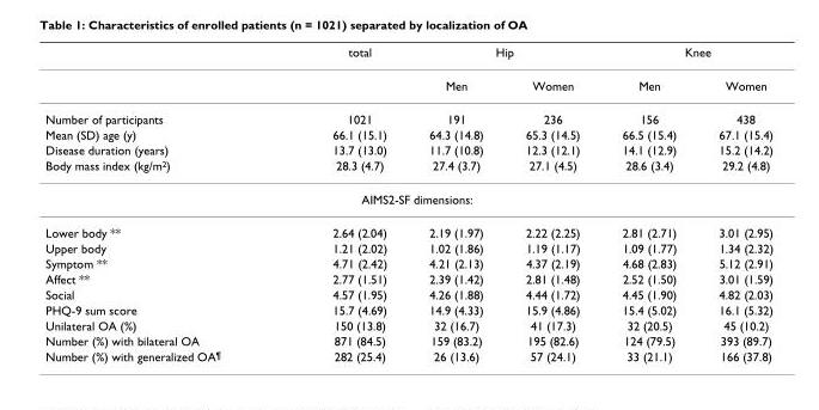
<table><thead><tr><td rowspan="2"></td><td rowspan="2">total</td><td colspan="2">Hip</td><td colspan="2">Knee</td></tr><tr><td>Men</td><td>Women</td><td>Men</td><td>Women</td></tr></thead><tbody><tr><td>Number of participants</td><td>1021</td><td>191</td><td>236</td><td>156</td><td>438</td></tr><tr><td>Mean (SD) age (y)</td><td>66.1 (15.1)</td><td>64.3 (14.8)</td><td>65.3 (14.5)</td><td>66.5 (15.4)</td><td>67.1 (15.4)</td></tr><tr><td>Disease duration (years)</td><td>13.7 (13.0)</td><td>11.7 (10.8)</td><td>12.3 (12.1)</td><td>14.1 (12.9)</td><td>15.2 (14.2)</td></tr><tr><td>Body mass index (kg/m<sup>2</sup>)</td><td>28.3 (4.7)</td><td>27.4 (3.7)</td><td>27.1 (4.5)</td><td>28.6 (3.4)</td><td>29.2 (4.8)</td></tr><tr><td colspan="6">AIMS2-SF dimensions:</td></tr><tr><td>Lower body **</td><td>2.64 (2.04)</td><td>2.19 (1.97)</td><td>2.22 (2.25)</td><td>2.81 (2.71)</td><td>3.01 (2.95)</td></tr><tr><td>Upper body</td><td>1.21 (2.02)</td><td>1.02 (1.86)</td><td>1.19 (1.17)</td><td>1.09 (1.77)</td><td>1.34 (2.32)</td></tr><tr><td>Symptom **</td><td>4.71 (2.42)</td><td>4.21 (2.13)</td><td>4.37 (2.19)</td><td>4.68 (2.83)</td><td>5.12 (2.91)</td></tr><tr><td>Affect **</td><td>2.77 (1.51)</td><td>2.39 (1.42)</td><td>2.81 (1.48)</td><td>2.52 (1.50)</td><td>3.01 (1.59)</td></tr><tr><td>Social</td><td>4.57 (1.95)</td><td>4.26 (1.88)</td><td>4.44 (1.72)</td><td>4.45 (1.90)</td><td>4.82 (2.03)</td></tr><tr><td>PHQ-9 sum score</td><td>15.7 (4.69)</td><td>14.9 (4.33)</td><td>15.9 (4.86)</td><td>15.4 (5.02)</td><td>16.1 (5.32)</td></tr><tr><td>Unilateral OA (%)</td><td>150 (13.8)</td><td>32 (16.7)</td><td>41 (17.3)</td><td>32 (20.5)</td><td>45 (10.2)</td></tr><tr><td>Number (%) with bilateral OA</td><td>871 (84.5)</td><td>159 (83.2)</td><td>195 (82.6)</td><td>124 (79.5)</td><td>393 (89.7)</td></tr><tr><td>Number (%) with generalized OA<sup>¶</sup></td><td>282 (25.4)</td><td>26 (13.6)</td><td>57 (24.1)</td><td>33 (21.1)</td><td>166 (37.8)</td></tr></tbody></table>